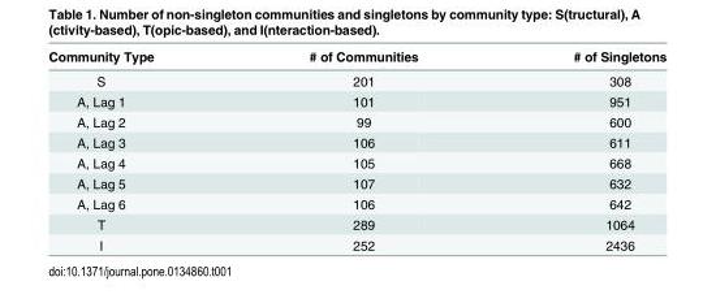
<table><thead><tr><td>Community Type</td><td># of Communities</td><td># of Singletons</td></tr></thead><tbody><tr><td>S</td><td>201</td><td>308</td></tr><tr><td>A, Lag 1</td><td>101</td><td>951</td></tr><tr><td>A, Lag 2</td><td>99</td><td>600</td></tr><tr><td>A, Lag 3</td><td>106</td><td>611</td></tr><tr><td>A, Lag 4</td><td>105</td><td>668</td></tr><tr><td>A, Lag 5</td><td>107</td><td>632</td></tr><tr><td>A, Lag 6</td><td>106</td><td>642</td></tr><tr><td>T</td><td>289</td><td>1064</td></tr><tr><td>I</td><td>252</td><td>2436</td></tr></tbody></table>